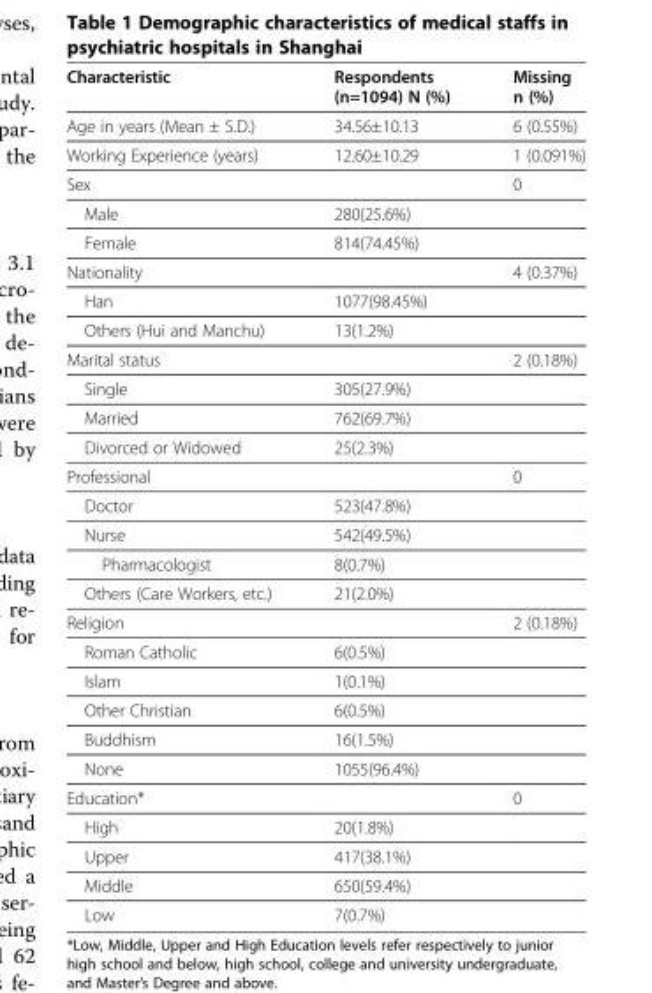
<table><thead><tr><td>Characteristic</td><td>Respondents (n=1094) N (%)</td><td>Missing n (%)</td></tr></thead><tbody><tr><td>Age in years (Mean ± S.D.)</td><td>34.56±10.13</td><td>6 (0.55%)</td></tr><tr><td>Working Experience (years)</td><td>12.60±10.29</td><td>1 (0.091%)</td></tr><tr><td>Sex</td><td></td><td>0</td></tr><tr><td>Male</td><td>280(25.6%)</td><td></td></tr><tr><td>Female</td><td>814(74.45%)</td><td></td></tr><tr><td>Nationality</td><td></td><td>4 (0.37%)</td></tr><tr><td>Han</td><td>1077(98.45%)</td><td></td></tr><tr><td>Others (Hui and Manchu)</td><td>13(1.2%)</td><td></td></tr><tr><td>Marital status</td><td></td><td>2 (0.18%)</td></tr><tr><td>Single</td><td>305(27.9%)</td><td></td></tr><tr><td>Married</td><td>762(69.7%)</td><td></td></tr><tr><td>Divorced or Widowed</td><td>25(2.3%)</td><td></td></tr><tr><td>Professional</td><td></td><td>0</td></tr><tr><td>Doctor</td><td>523(47.8%)</td><td></td></tr><tr><td>Nurse</td><td>542(49.5%)</td><td></td></tr><tr><td>Pharmacologist</td><td>8(0.7%)</td><td></td></tr><tr><td>Others (Care Workers, etc.)</td><td>21(2.0%)</td><td></td></tr><tr><td>Religion</td><td></td><td>2 (0.18%)</td></tr><tr><td>Roman Catholic</td><td>6(0.5%)</td><td></td></tr><tr><td>Islam</td><td>1(0.1%)</td><td></td></tr><tr><td>Other Christian</td><td>6(0.5%)</td><td></td></tr><tr><td>Buddhism</td><td>16(1.5%)</td><td></td></tr><tr><td>None</td><td>1055(96.4%)</td><td></td></tr><tr><td>Education*</td><td></td><td>0</td></tr><tr><td>High</td><td>20(1.8%)</td><td></td></tr><tr><td>Upper</td><td>417(38.1%)</td><td></td></tr><tr><td>Middle</td><td>650(59.4%)</td><td></td></tr><tr><td>Low</td><td>7(0.7%)</td><td></td></tr></tbody></table>